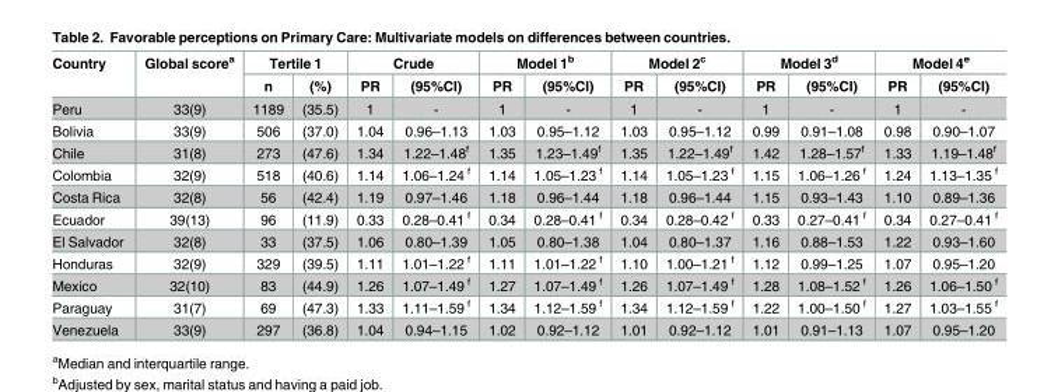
<table><thead><tr><td rowspan="2">Country</td><td rowspan="2">Global score<sup>a</sup></td><td colspan="2">Tertile 1</td><td colspan="2">Crude</td><td colspan="2">Model 1<sup>b</sup></td><td colspan="2">Model 2<sup>c</sup></td><td colspan="2">Model 3<sup>d</sup></td><td colspan="2">Model 4<sup>e</sup></td></tr><tr><td>n</td><td>(%)</td><td>PR</td><td>(95%CI)</td><td>PR</td><td>(95%CI)</td><td>PR</td><td>(95%CI)</td><td>PR</td><td>(95%CI)</td><td>PR</td><td>(95%CI)</td></tr></thead><tbody><tr><td>Peru</td><td>33(9)</td><td>1189</td><td>(35.5)</td><td>1</td><td>-</td><td>1</td><td>-</td><td>1</td><td>-</td><td>1</td><td>-</td><td>1</td><td>-</td></tr><tr><td>Bolivia</td><td>33(9)</td><td>506</td><td>(37.0)</td><td>1.04</td><td>0.96–1.13</td><td>1.03</td><td>0.95–1.12</td><td>1.03</td><td>0.95–1.12</td><td>0.99</td><td>0.91–1.08</td><td>0.98</td><td>0.90–1.07</td></tr><tr><td>Chile</td><td>31(8)</td><td>273</td><td>(47.6)</td><td>1.34</td><td>1.22–1.48<sup>f</sup></td><td>1.35</td><td>1.23–1.49<sup>f</sup></td><td>1.35</td><td>1.22–1.49<sup>f</sup></td><td>1.42</td><td>1.28–1.57<sup>f</sup></td><td>1.33</td><td>1.19–1.48<sup>f</sup></td></tr><tr><td>Colombia</td><td>32(9)</td><td>518</td><td>(40.6)</td><td>1.14</td><td>1.06–1.24 <sup>f</sup></td><td>1.14</td><td>1.05–1.23 <sup>f</sup></td><td>1.14</td><td>1.05–1.23 <sup>f</sup></td><td>1.15</td><td>1.06–1.26 <sup>f</sup></td><td>1.24</td><td>1.13–1.35 <sup>f</sup></td></tr><tr><td>Costa Rica</td><td>32(8)</td><td>56</td><td>(42.4)</td><td>1.19</td><td>0.97–1.46</td><td>1.18</td><td>0.96–1.44</td><td>1.18</td><td>0.96–1.44</td><td>1.15</td><td>0.93–1.43</td><td>1.10</td><td>0.89–1.36</td></tr><tr><td>Ecuador</td><td>39(13)</td><td>96</td><td>(11.9)</td><td>0.33</td><td>0.28–0.41 <sup>f</sup></td><td>0.34</td><td>0.28–0.41 <sup>f</sup></td><td>0.34</td><td>0.28–0.42 <sup>f</sup></td><td>0.33</td><td>0.27–0.41 <sup>f</sup></td><td>0.34</td><td>0.27–0.41 <sup>f</sup></td></tr><tr><td>El Salvador</td><td>32(8)</td><td>33</td><td>(37.5)</td><td>1.06</td><td>0.80–1.39</td><td>1.05</td><td>0.80–1.38</td><td>1.04</td><td>0.80–1.37</td><td>1.16</td><td>0.88–1.53</td><td>1.22</td><td>0.93–1.60</td></tr><tr><td>Honduras</td><td>32(9)</td><td>329</td><td>(39.5)</td><td>1.11</td><td>1.01–1.22 <sup>f</sup></td><td>1.11</td><td>1.01–1.22 <sup>f</sup></td><td>1.10</td><td>1.00–1.21 <sup>f</sup></td><td>1.12</td><td>0.99–1.25</td><td>1.07</td><td>0.95–1.20</td></tr><tr><td>Mexico</td><td>32(10)</td><td>83</td><td>(44.9)</td><td>1.26</td><td>1.07–1.49 <sup>f</sup></td><td>1.27</td><td>1.07–1.49 <sup>f</sup></td><td>1.26</td><td>1.07–1.49 <sup>f</sup></td><td>1.28</td><td>1.08–1.52 <sup>f</sup></td><td>1.26</td><td>1.06–1.50 <sup>f</sup></td></tr><tr><td>Paraguay</td><td>31(7)</td><td>69</td><td>(47.3)</td><td>1.33</td><td>1.11–1.59 <sup>f</sup></td><td>1.34</td><td>1.12–1.59 <sup>f</sup></td><td>1.34</td><td>1.12–1.59 <sup>f</sup></td><td>1.22</td><td>1.00–1.50 <sup>f</sup></td><td>1.27</td><td>1.03–1.55 <sup>f</sup></td></tr><tr><td>Venezuela</td><td>33(9)</td><td>297</td><td>(36.8)</td><td>1.04</td><td>0.94–1.15</td><td>1.02</td><td>0.92–1.12</td><td>1.01</td><td>0.92–1.12</td><td>1.01</td><td>0.91–1.13</td><td>1.07</td><td>0.95–1.20</td></tr></tbody></table>